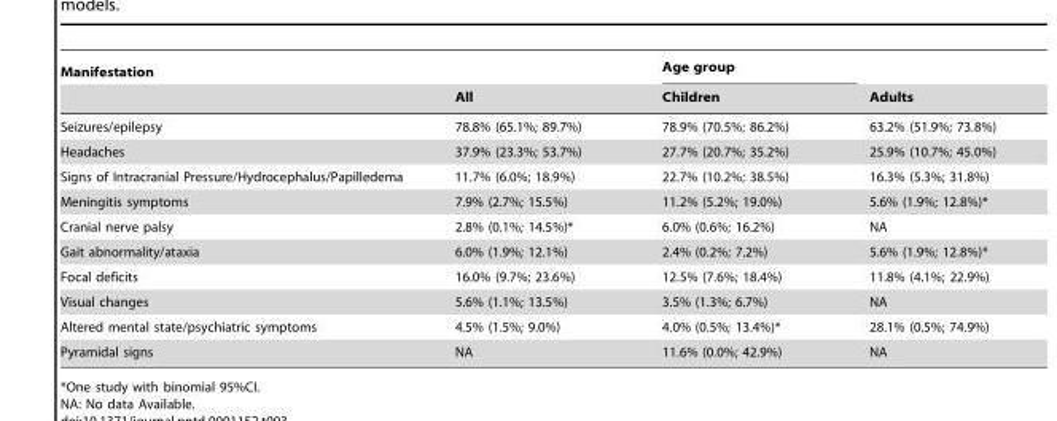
<table><thead><tr><td rowspan="2">Manifestation</td><td rowspan="2">All</td><td rowspan="2">Age group Children</td><td rowspan="2">Adults</td></tr><tr></tr></thead><tbody><tr><td>Seizures/epilepsy</td><td>78.8% (65.1%; 89.7%)</td><td>78.9% (70.5%; 86.2%)</td><td>63.2% (51.9%; 73.8%)</td></tr><tr><td>Headaches</td><td>37.9% (23.3%; 53.7%)</td><td>27.7% (20.7%; 35.2%)</td><td>25.9% (10.7%; 45.0%)</td></tr><tr><td>Signs of Intracranial Pressure/Hydrocephalus/Papilledema</td><td>11.7% (6.0%; 18.9%)</td><td>22.7% (10.2%; 38.5%)</td><td>16.3% (5.3%; 31.8%)</td></tr><tr><td>Meningitis symptoms</td><td>7.9% (2.7%; 15.5%)</td><td>11.2% (5.2%; 19.0%)</td><td>5.6% (1.9%; 12.8%)*</td></tr><tr><td>Cranial nerve palsy</td><td>2.8% (0.1%; 14.5%)*</td><td>6.0% (0.6%; 16.2%)</td><td>NA</td></tr><tr><td>Gait abnormality/ataxia</td><td>6.0% (1.9%; 12.1%)</td><td>2.4% (0.2%; 7.2%)</td><td>5.6% (1.9%; 12.8%)*</td></tr><tr><td>Focal deficits</td><td>16.0% (9.7%; 23.6%)</td><td>12.5% (7.6%; 18.4%)</td><td>11.8% (4.1%; 22.9%)</td></tr><tr><td>Visual changes</td><td>5.6% (1.1%; 13.5%)</td><td>3.5% (1.3%; 6.7%)</td><td>NA</td></tr><tr><td>Altered mental state/psychiatric symptoms</td><td>4.5% (1.5%; 9.0%)</td><td>4.0% (0.5%; 13.4%)*</td><td>28.1% (0.5%; 74.9%)</td></tr><tr><td>Pyramidal signs</td><td>NA</td><td>11.6% (0.0%; 42.9%)</td><td>NA</td></tr></tbody></table>